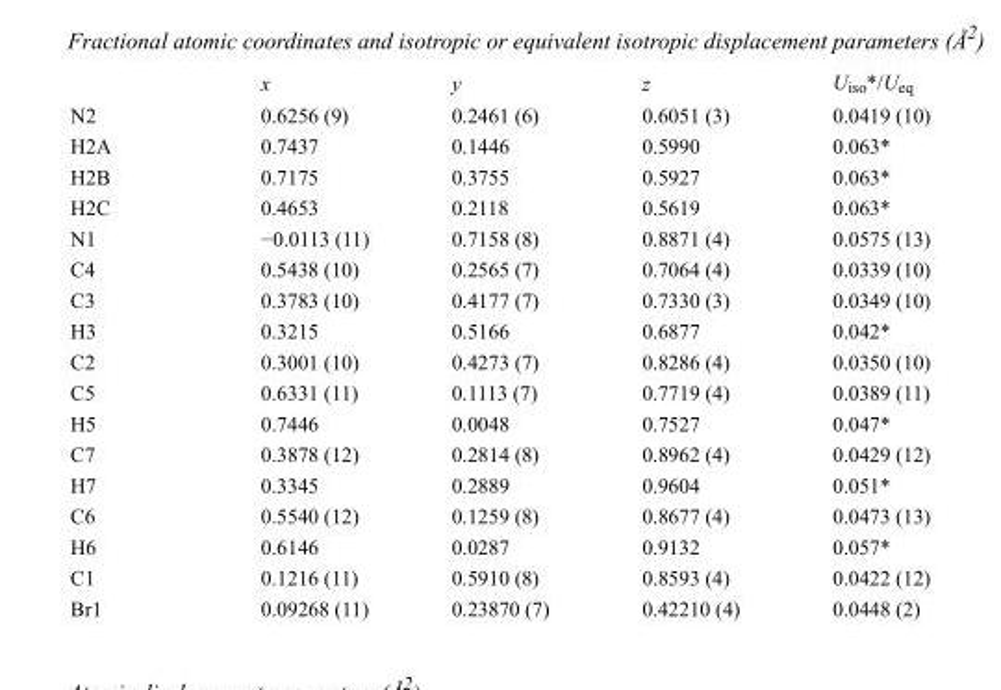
<table><thead><tr><td></td><td>x</td><td>y</td><td>z</td><td>U<sub>iso</sub>*/U<sub>eq</sub></td></tr></thead><tbody><tr><td>N2</td><td>0.6256 (9)</td><td>0.2461 (6)</td><td>0.6051 (3)</td><td>0.0419 (10)</td></tr><tr><td>H2A</td><td>0.7437</td><td>0.1446</td><td>0.5990</td><td>0.063*</td></tr><tr><td>H2B</td><td>0.7175</td><td>0.3755</td><td>0.5927</td><td>0.063*</td></tr><tr><td>H2C</td><td>0.4653</td><td>0.2118</td><td>0.5619</td><td>0.063*</td></tr><tr><td>N1</td><td>−0.0113 (11)</td><td>0.7158 (8)</td><td>0.8871 (4)</td><td>0.0575 (13)</td></tr><tr><td>C4</td><td>0.5438 (10)</td><td>0.2565 (7)</td><td>0.7064 (4)</td><td>0.0339 (10)</td></tr><tr><td>C3</td><td>0.3783 (10)</td><td>0.4177 (7)</td><td>0.7330 (3)</td><td>0.0349 (10)</td></tr><tr><td>H3</td><td>0.3215</td><td>0.5166</td><td>0.6877</td><td>0.042*</td></tr><tr><td>C2</td><td>0.3001 (10)</td><td>0.4273 (7)</td><td>0.8286 (4)</td><td>0.0350 (10)</td></tr><tr><td>C5</td><td>0.6331 (11)</td><td>0.1113 (7)</td><td>0.7719 (4)</td><td>0.0389 (11)</td></tr><tr><td>H5</td><td>0.7446</td><td>0.0048</td><td>0.7527</td><td>0.047*</td></tr><tr><td>C7</td><td>0.3878 (12)</td><td>0.2814 (8)</td><td>0.8962 (4)</td><td>0.0429 (12)</td></tr><tr><td>H7</td><td>0.3345</td><td>0.2889</td><td>0.9604</td><td>0.051*</td></tr><tr><td>C6</td><td>0.5540 (12)</td><td>0.1259 (8)</td><td>0.8677 (4)</td><td>0.0473 (13)</td></tr><tr><td>H6</td><td>0.6146</td><td>0.0287</td><td>0.9132</td><td>0.057*</td></tr><tr><td>C1</td><td>0.1216 (11)</td><td>0.5910 (8)</td><td>0.8593 (4)</td><td>0.0422 (12)</td></tr><tr><td>Br1</td><td>0.09268 (11)</td><td>0.23870 (7)</td><td>0.42210 (4)</td><td>0.0448 (2)</td></tr></tbody></table>